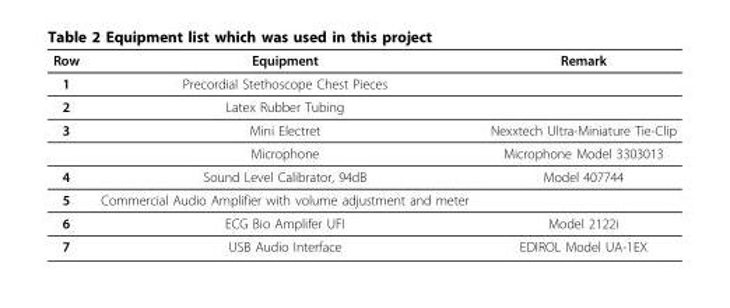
<table><thead><tr><td>Row</td><td>Equipment</td><td>Remark</td></tr></thead><tbody><tr><td>1</td><td>Precordial Stethoscope Chest Pieces</td><td></td></tr><tr><td>2</td><td>Latex Rubber Tubing</td><td></td></tr><tr><td rowspan="2">3</td><td>Mini Electret</td><td>Nexxtech Ultra-Miniature Tie-Clip</td></tr><tr><td>Microphone</td><td>Microphone Model 3303013</td></tr><tr><td>4</td><td>Sound Level Calibrator, 94dB</td><td>Model 407744</td></tr><tr><td>5</td><td>Commercial Audio Amplifier with volume adjustment and meter</td><td></td></tr><tr><td>6</td><td>ECG Bio Amplifer UFI</td><td>Model 2122i</td></tr><tr><td>7</td><td>USB Audio Interface</td><td>EDIROL Model UA-1EX</td></tr></tbody></table>